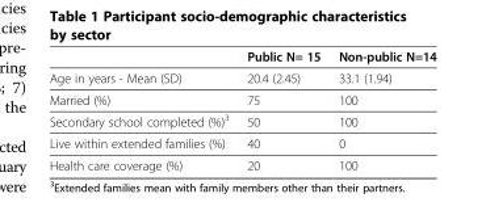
<table><thead><tr><td></td><td>Public N= 15</td><td>Non-public N=14</td></tr></thead><tbody><tr><td>Age in years - Mean (SD)</td><td>20.4 (2.45)</td><td>33.1 (1.94)</td></tr><tr><td>Married (%)</td><td>75</td><td>100</td></tr><tr><td>Secondary school completed (%)<sup>3</sup></td><td>50</td><td>100</td></tr><tr><td>Live within extended families (%)</td><td>40</td><td>0</td></tr><tr><td>Health care coverage (%)</td><td>20</td><td>100</td></tr></tbody></table>